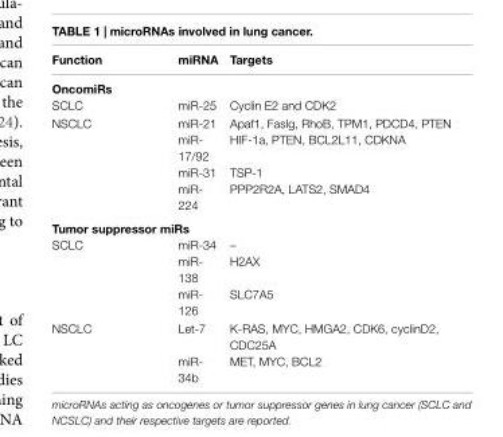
<table><thead><tr><td>Function</td><td>miRnA</td><td>Targets</td></tr></thead><tbody><tr><td colspan="3">OncomiRs</td></tr><tr><td>SCLC</td><td>miR-25</td><td>Cyclin E2 and CDK2</td></tr><tr><td rowspan="4">NSCLC</td><td>miR-21</td><td>Apaf1, Faslg, RhoB, TPM1, PDCD4, PTEN</td></tr><tr><td>miR- 17/92</td><td>HIF-1a, PTEN, BCL2L11, CDKNA</td></tr><tr><td>miR-31</td><td>TSP-1</td></tr><tr><td>miR- 224</td><td>PPP2R2A, LATS2, SMAD4</td></tr><tr><td colspan="3">Tumor suppressor miRs</td></tr><tr><td rowspan="3">SCLC</td><td>miR-34</td><td>–</td></tr><tr><td>miR- 138</td><td>H2AX</td></tr><tr><td>miR- 126</td><td>SLC7A5</td></tr><tr><td rowspan="2">NSCLC</td><td>Let-7</td><td>K-RAS, MYC, HMGA2, CDK6, cyclinD2, CDC25A</td></tr><tr><td>miR- 34b</td><td>MET, MYC, BCL2</td></tr></tbody></table>